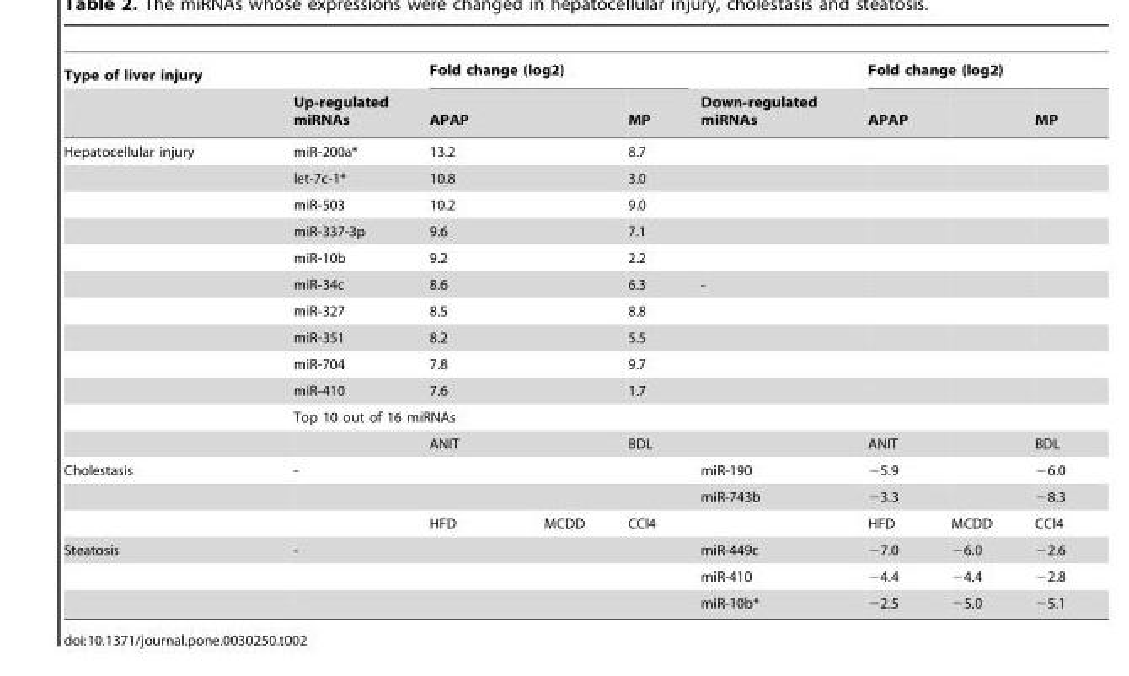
<table><thead><tr><td rowspan="2">Type of liver injury</td><td rowspan="2">Up-regulated miRNAs</td><td colspan="3">Fold change (log2)</td><td rowspan="2">Down-regulated miRNAs</td><td colspan="3">Fold change (log2)</td></tr><tr><td>APAP</td><td></td><td>MP</td><td>APAP</td><td></td><td>MP</td></tr></thead><tbody><tr><td rowspan="12">Hepatocellular injury</td><td>miR-200a*</td><td>13.2</td><td></td><td>8.7</td><td></td><td></td><td></td><td></td></tr><tr><td>let-7c-1*</td><td>10.8</td><td></td><td>3.0</td><td></td><td></td><td></td><td></td></tr><tr><td>miR-503</td><td>10.2</td><td></td><td>9.0</td><td></td><td></td><td></td><td></td></tr><tr><td>miR-337-3p</td><td>9.6</td><td></td><td>7.1</td><td></td><td></td><td></td><td></td></tr><tr><td>miR-10b</td><td>9.2</td><td></td><td>2.2</td><td></td><td></td><td></td><td></td></tr><tr><td>miR-34c</td><td>8.6</td><td></td><td>6.3</td><td>-</td><td></td><td></td><td></td></tr><tr><td>miR-327</td><td>8.5</td><td></td><td>8.8</td><td></td><td></td><td></td><td></td></tr><tr><td>miR-351</td><td>8.2</td><td></td><td>5.5</td><td></td><td></td><td></td><td></td></tr><tr><td>miR-704</td><td>7.8</td><td></td><td>9.7</td><td></td><td></td><td></td><td></td></tr><tr><td>miR-410</td><td>7.6</td><td></td><td>1.7</td><td></td><td></td><td></td><td></td></tr><tr><td colspan="4">Top 10 out of 16 miRNAs</td><td></td><td></td><td></td><td></td></tr><tr><td></td><td>ANIT</td><td></td><td>BDL</td><td></td><td>ANIT</td><td></td><td>BDL</td></tr><tr><td rowspan="3">Cholestasis</td><td colspan="4">-</td><td>miR-190</td><td>−5.9</td><td></td><td>−6.0</td></tr><tr><td colspan="4"></td><td>miR-743b</td><td>−3.3</td><td></td><td>−8.3</td></tr><tr><td></td><td>HFD</td><td>MCDD</td><td>CCl4</td><td></td><td>HFD</td><td>MCDD</td><td>CCl4</td></tr><tr><td rowspan="3">Steatosis</td><td colspan="4">-</td><td>miR-449c</td><td>−7.0</td><td>−6.0</td><td>−2.6</td></tr><tr><td colspan="4"></td><td>miR-410</td><td>−4.4</td><td>−4.4</td><td>−2.8</td></tr><tr><td colspan="4"></td><td>miR-10b*</td><td>−2.5</td><td>−5.0</td><td>−5.1</td></tr></tbody></table>